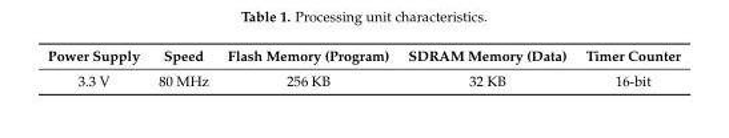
<table><thead><tr><td>Power Supply</td><td>Speed</td><td>Flash Memory (Program)</td><td>SDRAM Memory (Data)</td><td>Timer Counter</td></tr></thead><tbody><tr><td>3.3 V</td><td>80 MHz</td><td>256 KB</td><td>32 KB</td><td>16-bit</td></tr></tbody></table>